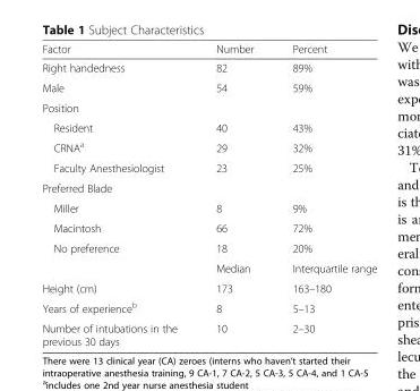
<table><thead><tr><td>Factor</td><td>Number</td><td>Percent</td></tr></thead><tbody><tr><td>Right handedness</td><td>82</td><td>89%</td></tr><tr><td>Male</td><td>54</td><td>59%</td></tr><tr><td colspan="3">Position</td></tr><tr><td>Resident</td><td>40</td><td>43%</td></tr><tr><td>CRNA<sup>a</sup></td><td>29</td><td>32%</td></tr><tr><td>Faculty Anesthesiologist</td><td>23</td><td>25%</td></tr><tr><td colspan="3">Preferred Blade</td></tr><tr><td>Miller</td><td>8</td><td>9%</td></tr><tr><td>Macintosh</td><td>66</td><td>72%</td></tr><tr><td rowspan="2">No preference</td><td>18</td><td>20%</td></tr><tr><td>Median</td><td>Interquartile range</td></tr><tr><td>Height (cm)</td><td>173</td><td>163–180</td></tr><tr><td>Years of experience<sup>b</sup></td><td>8</td><td>5–13</td></tr><tr><td>Number of intubations in the previous 30 days</td><td>10</td><td>2–30</td></tr></tbody></table>